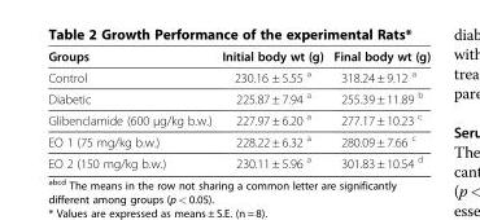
<table><thead><tr><td>Groups</td><td>Initial body wt (g)</td><td>Final body wt (g)</td></tr></thead><tbody><tr><td>Control</td><td>230.16 ± 5.55 <sup>a</sup></td><td>318.24 ± 9.12 <sup>a</sup></td></tr><tr><td>Diabetic</td><td>225.87 ± 7.94 <sup>a</sup></td><td>255.39 ± 11.89 <sup>b</sup></td></tr><tr><td>Glibenclamide (600 μg/kg b.w.)</td><td>227.97 ± 6.20 <sup>a</sup></td><td>277.17 ± 10.23 <sup>c</sup></td></tr><tr><td>EO 1 (75 mg/kg b.w.)</td><td>228.22 ± 6.32 <sup>a</sup></td><td>280.09 ± 7.66 <sup>c</sup></td></tr><tr><td>EO 2 (150 mg/kg b.w.)</td><td>230.11 ± 5.96 <sup>a</sup></td><td>301.83 ± 10.54 <sup>d</sup></td></tr></tbody></table>